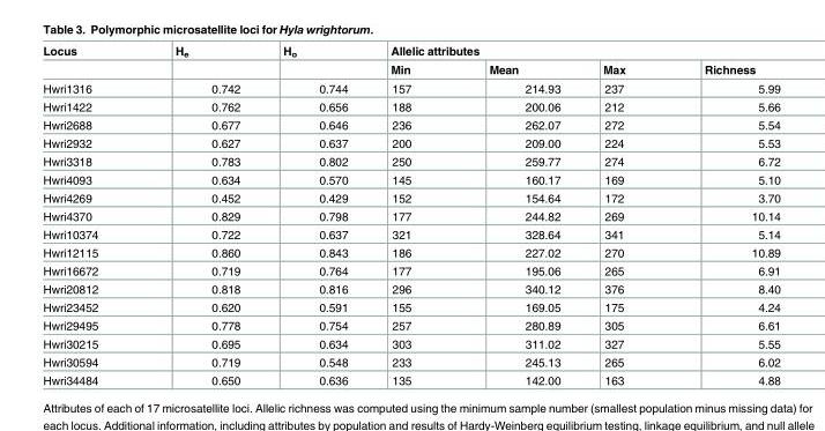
<table><thead><tr><td rowspan="2">Locus</td><td rowspan="2">H<sub>e</sub></td><td rowspan="2">H<sub>o</sub></td><td colspan="4">Allelic attributes</td></tr><tr><td>Min</td><td>Mean</td><td>Max</td><td>Richness</td></tr></thead><tbody><tr><td>Hwri1316</td><td>0.742</td><td>0.744</td><td>157</td><td>214.93</td><td>237</td><td>5.99</td></tr><tr><td>Hwri1422</td><td>0.762</td><td>0.656</td><td>188</td><td>200.06</td><td>212</td><td>5.66</td></tr><tr><td>Hwri2688</td><td>0.677</td><td>0.646</td><td>236</td><td>262.07</td><td>272</td><td>5.54</td></tr><tr><td>Hwri2932</td><td>0.627</td><td>0.637</td><td>200</td><td>209.00</td><td>224</td><td>5.53</td></tr><tr><td>Hwri3318</td><td>0.783</td><td>0.802</td><td>250</td><td>259.77</td><td>274</td><td>6.72</td></tr><tr><td>Hwri4093</td><td>0.634</td><td>0.570</td><td>145</td><td>160.17</td><td>169</td><td>5.10</td></tr><tr><td>Hwri4269</td><td>0.452</td><td>0.429</td><td>152</td><td>154.64</td><td>172</td><td>3.70</td></tr><tr><td>Hwri4370</td><td>0.829</td><td>0.798</td><td>177</td><td>244.82</td><td>269</td><td>10.14</td></tr><tr><td>Hwri10374</td><td>0.722</td><td>0.637</td><td>321</td><td>328.64</td><td>341</td><td>5.14</td></tr><tr><td>Hwri12115</td><td>0.860</td><td>0.843</td><td>186</td><td>227.02</td><td>270</td><td>10.89</td></tr><tr><td>Hwri16672</td><td>0.719</td><td>0.764</td><td>177</td><td>195.06</td><td>265</td><td>6.91</td></tr><tr><td>Hwri20812</td><td>0.818</td><td>0.816</td><td>296</td><td>340.12</td><td>376</td><td>8.40</td></tr><tr><td>Hwri23452</td><td>0.620</td><td>0.591</td><td>155</td><td>169.05</td><td>175</td><td>4.24</td></tr><tr><td>Hwri29495</td><td>0.778</td><td>0.754</td><td>257</td><td>280.89</td><td>305</td><td>6.61</td></tr><tr><td>Hwri30215</td><td>0.695</td><td>0.634</td><td>303</td><td>311.02</td><td>327</td><td>5.55</td></tr><tr><td>Hwri30594</td><td>0.719</td><td>0.548</td><td>233</td><td>245.13</td><td>265</td><td>6.02</td></tr><tr><td>Hwri34484</td><td>0.650</td><td>0.636</td><td>135</td><td>142.00</td><td>163</td><td>4.88</td></tr></tbody></table>